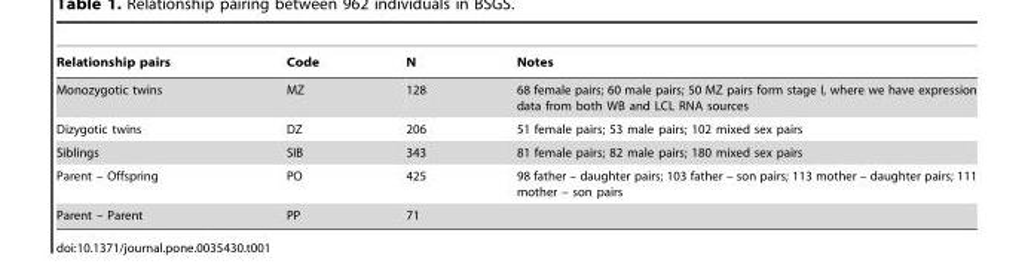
<table><thead><tr><td>Relationship pairs</td><td>Code</td><td>N</td><td>Notes</td></tr></thead><tbody><tr><td>Monozygotic twins</td><td>MZ</td><td>128</td><td>68 female pairs; 60 male pairs; 50 MZ pairs form stage I, where we have expression data from both WB and LCL RNA sources</td></tr><tr><td>Dizygotic twins</td><td>DZ</td><td>206</td><td>51 female pairs; 53 male pairs; 102 mixed sex pairs</td></tr><tr><td>Siblings</td><td>SIB</td><td>343</td><td>81 female pairs; 82 male pairs; 180 mixed sex pairs</td></tr><tr><td>Parent – Offspring</td><td>PO</td><td>425</td><td>98 father – daughter pairs; 103 father – son pairs; 113 mother – daughter pairs; 111 mother – son pairs</td></tr><tr><td>Parent – Parent</td><td>PP</td><td>71</td><td></td></tr></tbody></table>